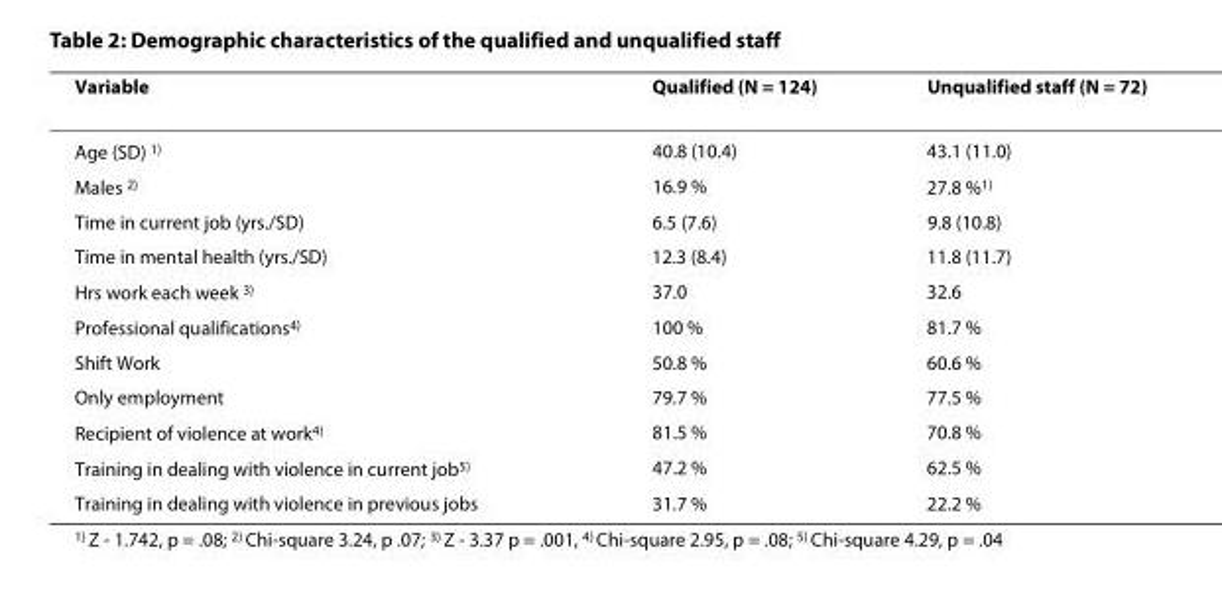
<table><thead><tr><td>Variable</td><td>Qualified (N = 124)</td><td>Unqualified staff (N = 72)</td></tr></thead><tbody><tr><td>Age (SD) <sup>1)</sup></td><td>40.8 (10.4)</td><td>43.1 (11.0)</td></tr><tr><td>Males <sup>2)</sup></td><td>16.9 %</td><td>27.8 %<sup>1)</sup></td></tr><tr><td>Time in current job (yrs./SD)</td><td>6.5 (7.6)</td><td>9.8 (10.8)</td></tr><tr><td>Time in mental health (yrs./SD)</td><td>12.3 (8.4)</td><td>11.8 (11.7)</td></tr><tr><td>Hrs work each week <sup>3)</sup></td><td>37.0</td><td>32.6</td></tr><tr><td>Professional qualifications<sup>4)</sup></td><td>100 %</td><td>81.7 %</td></tr><tr><td>Shift Work</td><td>50.8 %</td><td>60.6 %</td></tr><tr><td>Only employment</td><td>79.7 %</td><td>77.5 %</td></tr><tr><td>Recipient of violence at work<sup>4)</sup></td><td>81.5 %</td><td>70.8 %</td></tr><tr><td>Training in dealing with violence in current job<sup>5)</sup></td><td>47.2 %</td><td>62.5 %</td></tr><tr><td>Training in dealing with violence in previous jobs</td><td>31.7 %</td><td>22.2 %</td></tr></tbody></table>